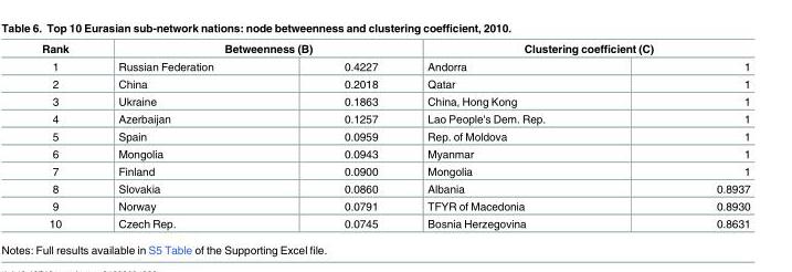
<table><thead><tr><td rowspan="2">Rank 1</td><td colspan="2">Betweenness (B)</td><td colspan="2">Clustering coefficient (C)</td></tr><tr><td>Russian Federation</td><td>0.4227</td><td>Andorra</td><td>1</td></tr></thead><tbody><tr><td>2</td><td>China</td><td>0.2018</td><td>Qatar</td><td>1</td></tr><tr><td>3</td><td>Ukraine</td><td>0.1863</td><td>China, Hong Kong</td><td>1</td></tr><tr><td>4</td><td>Azerbaijan</td><td>0.1257</td><td>Lao People&#x27;s Dem. Rep.</td><td>1</td></tr><tr><td>5</td><td>Spain</td><td>0.0959</td><td>Rep. of Moldova</td><td>1</td></tr><tr><td>6</td><td>Mongolia</td><td>0.0943</td><td>Myanmar</td><td>1</td></tr><tr><td>7</td><td>Finland</td><td>0.0900</td><td>Mongolia</td><td>1</td></tr><tr><td>8</td><td>Slovakia</td><td>0.0860</td><td>Albania</td><td>0.8937</td></tr><tr><td>9</td><td>Norway</td><td>0.0791</td><td>TFYR of Macedonia</td><td>0.8930</td></tr><tr><td>10</td><td>Czech Rep.</td><td>0.0745</td><td>Bosnia Herzegovina</td><td>0.8631</td></tr></tbody></table>